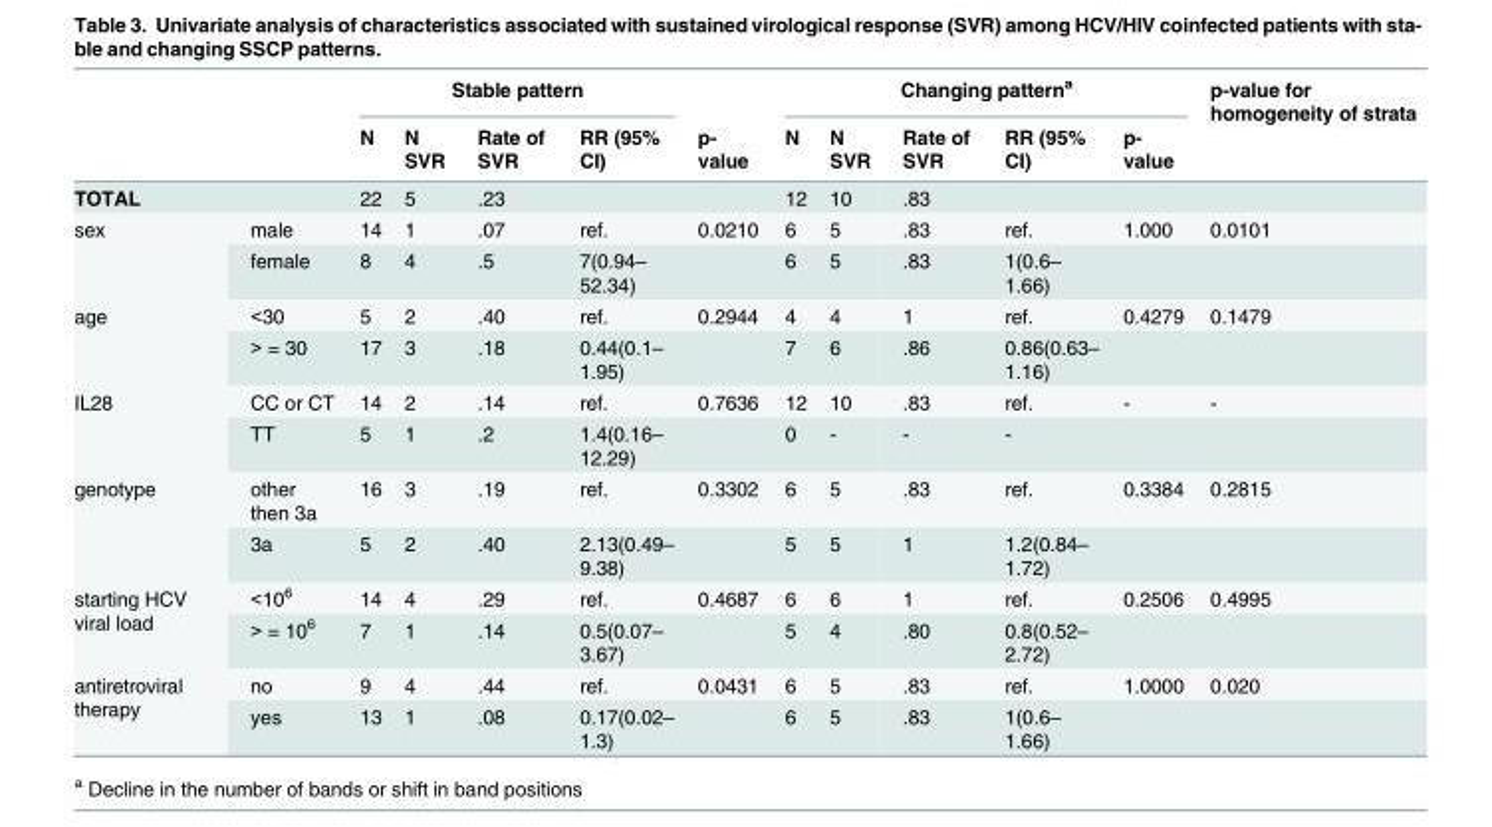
<table><thead><tr><td rowspan="2"></td><td rowspan="2"></td><td colspan="4">Stable pattern</td><td rowspan="2">p- value</td><td colspan="5">Changing pattern<sup>a</sup></td><td rowspan="2">p-value for homogeneity of strata</td></tr><tr><td>N</td><td>N SVR</td><td>Rate of SVR</td><td>RR (95% CI)</td><td>N</td><td>N SVR</td><td>Rate of SVR</td><td>RR (95% CI)</td><td>p- value</td></tr></thead><tbody><tr><td>TOTAL</td><td></td><td>22</td><td>5</td><td>.23</td><td></td><td></td><td>12</td><td>10</td><td>.83</td><td></td><td></td><td></td></tr><tr><td rowspan="2">sex</td><td>male</td><td>14</td><td>1</td><td>.07</td><td>ref.</td><td>0.0210</td><td>6</td><td>5</td><td>.83</td><td>ref.</td><td>1.000</td><td>0.0101</td></tr><tr><td>female</td><td>8</td><td>4</td><td>.5</td><td>7(0.94– 52.34)</td><td></td><td>6</td><td>5</td><td>.83</td><td>1(0.6– 1.66)</td><td></td><td></td></tr><tr><td rowspan="2">age</td><td>&lt;30</td><td>5</td><td>2</td><td>.40</td><td>ref.</td><td>0.2944</td><td>4</td><td>4</td><td>1</td><td>ref.</td><td>0.4279</td><td>0.1479</td></tr><tr><td>&gt; = 30</td><td>17</td><td>3</td><td>.18</td><td>0.44(0.1– 1.95)</td><td></td><td>7</td><td>6</td><td>.86</td><td>0.86(0.63– 1.16)</td><td></td><td></td></tr><tr><td rowspan="2">IL28</td><td>CC or CT</td><td>14</td><td>2</td><td>.14</td><td>ref.</td><td>0.7636</td><td>12</td><td>10</td><td>.83</td><td>ref.</td><td>-</td><td>-</td></tr><tr><td>TT</td><td>5</td><td>1</td><td>.2</td><td>1.4(0.16– 12.29)</td><td></td><td>0</td><td>-</td><td>-</td><td>-</td><td></td><td></td></tr><tr><td rowspan="2">genotype</td><td>other then 3a</td><td>16</td><td>3</td><td>.19</td><td>ref.</td><td>0.3302</td><td>6</td><td>5</td><td>.83</td><td>ref.</td><td>0.3384</td><td>0.2815</td></tr><tr><td>3a</td><td>5</td><td>2</td><td>.40</td><td>2.13(0.49– 9.38)</td><td></td><td>5</td><td>5</td><td>1</td><td>1.2(0.84– 1.72)</td><td></td><td></td></tr><tr><td rowspan="2">starting HCV viral load</td><td>&lt;10<sup>6</sup></td><td>14</td><td>4</td><td>.29</td><td>ref.</td><td>0.4687</td><td>6</td><td>6</td><td>1</td><td>ref.</td><td>0.2506</td><td>0.4995</td></tr><tr><td>&gt; = 10<sup>6</sup></td><td>7</td><td>1</td><td>.14</td><td>0.5(0.07– 3.67)</td><td></td><td>5</td><td>4</td><td>.80</td><td>0.8(0.52– 2.72)</td><td></td><td></td></tr><tr><td rowspan="2">antiretroviral therapy</td><td>no</td><td>9</td><td>4</td><td>.44</td><td>ref.</td><td>0.0431</td><td>6</td><td>5</td><td>.83</td><td>ref.</td><td>1.0000</td><td>0.020</td></tr><tr><td>yes</td><td>13</td><td>1</td><td>.08</td><td>0.17(0.02– 1.3)</td><td></td><td>6</td><td>5</td><td>.83</td><td>1(0.6– 1.66)</td><td></td><td></td></tr></tbody></table>